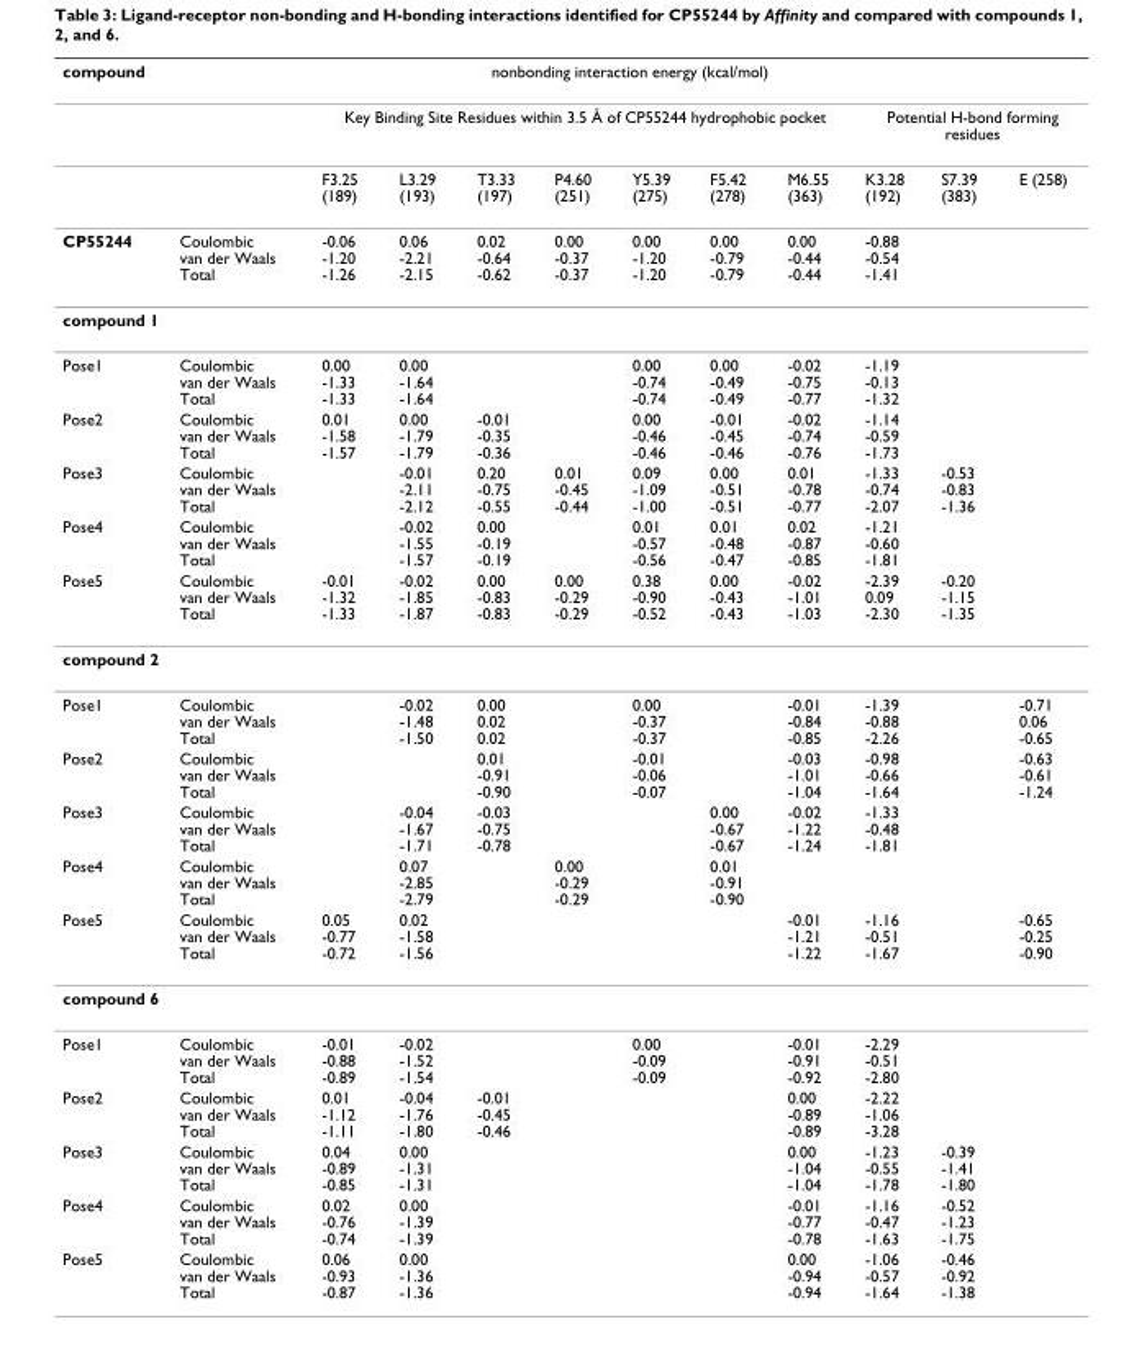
<table><thead><tr><td rowspan="3">compound</td><td colspan="11">nonbonding interaction energy (kcal/mol)</td></tr><tr><td rowspan="2"></td><td colspan="7">Key Binding Site Residues within 3.5 Å of CP55244 hydrophobic pocket</td><td colspan="3">Potential H-bond forming residues</td></tr><tr><td>F3.25 (189)</td><td>L3.29 (193)</td><td>T3.33 (197)</td><td>P4.60 (251)</td><td>Y5.39 (275)</td><td>F5.42 (278)</td><td>M6.55 (363)</td><td>K3.28 (192)</td><td>S7.39 (383)</td><td>E (258)</td></tr></thead><tbody><tr><td>CP55244</td><td>Coulombic van der Waals Total</td><td>-0.06 -1.20 -1.26</td><td>0.06 -2.21 -2.15</td><td>0.02 -0.64 -0.62</td><td>0.00 -0.37 -0.37</td><td>0.00 -1.20 -1.20</td><td>0.00 -0.79 -0.79</td><td>0.00 -0.44 -0.44</td><td>-0.88 -0.54 -1.41</td><td></td><td></td></tr><tr><td colspan="12">compound 1</td></tr><tr><td>Pose1</td><td>Coulombic van der Waals Total</td><td>0.00 -1.33 -1.33</td><td>0.00 -1.64 -1.64</td><td></td><td></td><td>0.00 -0.74 -0.74</td><td>0.00 -0.49 -0.49</td><td>-0.02 -0.75 -0.77</td><td>-1.19 -0.13 -1.32</td><td></td><td></td></tr><tr><td>Pose2</td><td>Coulombic van der Waals Total</td><td>0.01 -1.58 -1.57</td><td>0.00 -1.79 -1.79</td><td>-0.01 -0.35 -0.36</td><td></td><td>0.00 -0.46 -0.46</td><td>-0.01 -0.45 -0.46</td><td>-0.02 -0.74 -0.76</td><td>-1.14 -0.59 -1.73</td><td></td><td></td></tr><tr><td>Pose3</td><td>Coulombic van der Waals Total</td><td></td><td>-0.01 -2.11 -2.12</td><td>0.20 -0.75 -0.55</td><td>0.01 -0.45 -0.44</td><td>0.09 -1.09 -1.00</td><td>0.00 -0.51 -0.51</td><td>0.01 -0.78 -0.77</td><td>-1.33 -0.74 -2.07</td><td>-0.53 -0.83 -1.36</td><td></td></tr><tr><td>Pose4</td><td>Coulombic van der Waals Total</td><td></td><td>-0.02 -1.55 -1.57</td><td>0.00 -0.19 -0.19</td><td></td><td>0.01 -0.57 -0.56</td><td>0.01 -0.48 -0.47</td><td>0.02 -0.87 -0.85</td><td>-1.21 -0.60 -1.81</td><td></td><td></td></tr><tr><td>Pose5</td><td>Coulombic van der Waals Total</td><td>-0.01 -1.32 -1.33</td><td>-0.02 -1.85 -1.87</td><td>0.00 -0.83 -0.83</td><td>0.00 -0.29 -0.29</td><td>0.38 -0.90 -0.52</td><td>0.00 -0.43 -0.43</td><td>-0.02 -1.01 -1.03</td><td>-2.39 0.09 -2.30</td><td>-0.20 -1.15 -1.35</td><td></td></tr><tr><td colspan="12">compound 2</td></tr><tr><td>Pose1</td><td>Coulombic van der Waals Total</td><td></td><td>-0.02 -1.48 -1.50</td><td>0.00 0.02 0.02</td><td></td><td>0.00 -0.37 -0.37</td><td></td><td>-0.01 -0.84 -0.85</td><td>-1.39 -0.88 -2.26</td><td></td><td>-0.71 0.06 -0.65</td></tr><tr><td>Pose2</td><td>Coulombic van der Waals Total</td><td></td><td></td><td>0.01 -0.91 -0.90</td><td></td><td>-0.01 -0.06 -0.07</td><td></td><td>-0.03 -1.01 -1.04</td><td>-0.98 -0.66 -1.64</td><td></td><td>-0.63 -0.61 -1.24</td></tr><tr><td>Pose3</td><td>Coulombic van der Waals Total</td><td></td><td>-0.04 -1.67 -1.71</td><td>-0.03 -0.75 -0.78</td><td></td><td></td><td>0.00 -0.67 -0.67</td><td>-0.02 -1.22 -1.24</td><td>-1.33 -0.48 -1.81</td><td></td><td></td></tr><tr><td>Pose4</td><td>Coulombic van der Waals Total</td><td></td><td>0.07 -2.85 -2.79</td><td></td><td>0.00 -0.29 -0.29</td><td></td><td>0.01 -0.91 -0.90</td><td></td><td></td><td></td><td></td></tr><tr><td>Pose5</td><td>Coulombic van der Waals Total</td><td>0.05 -0.77 -0.72</td><td>0.02 -1.58 -1.56</td><td></td><td></td><td></td><td></td><td>-0.01 -1.21 -1.22</td><td>-1.16 -0.51 -1.67</td><td></td><td>-0.65 -0.25 -0.90</td></tr><tr><td colspan="12">compound 6</td></tr><tr><td>Pose1</td><td>Coulombic van der Waals Total</td><td>-0.01 -0.88 -0.89</td><td>-0.02 -1.52 -1.54</td><td></td><td></td><td>0.00 -0.09 -0.09</td><td></td><td>-0.01 -0.91 -0.92</td><td>-2.29 -0.51 -2.80</td><td></td><td></td></tr><tr><td>Pose2</td><td>Coulombic van der Waals Total</td><td>0.01 -1.12 -1.11</td><td>-0.04 -1.76 -1.80</td><td>-0.01 -0.45 -0.46</td><td></td><td></td><td></td><td>0.00 -0.89 -0.89</td><td>-2.22 -1.06 -3.28</td><td></td><td></td></tr><tr><td>Pose3</td><td>Coulombic van der Waals Total</td><td>0.04 -0.89 -0.85</td><td>0.00 -1.31 -1.31</td><td></td><td></td><td></td><td></td><td>0.00 -1.04 -1.04</td><td>-1.23 -0.55 -1.78</td><td>-0.39 -1.41 -1.80</td><td></td></tr><tr><td>Pose4</td><td>Coulombic van der Waals Total</td><td>0.02 -0.76 -0.74</td><td>0.00 -1.39 -1.39</td><td></td><td></td><td></td><td></td><td>-0.01 -0.77 -0.78</td><td>-1.16 -0.47 -1.63</td><td>-0.52 -1.23 -1.75</td><td></td></tr><tr><td>Pose5</td><td>Coulombic van der Waals Total</td><td>0.06 -0.93 -0.87</td><td>0.00 -1.36 -1.36</td><td></td><td></td><td></td><td></td><td>0.00 -0.94 -0.94</td><td>-1.06 -0.57 -1.64</td><td>-0.46 -0.92 -1.38</td><td></td></tr></tbody></table>